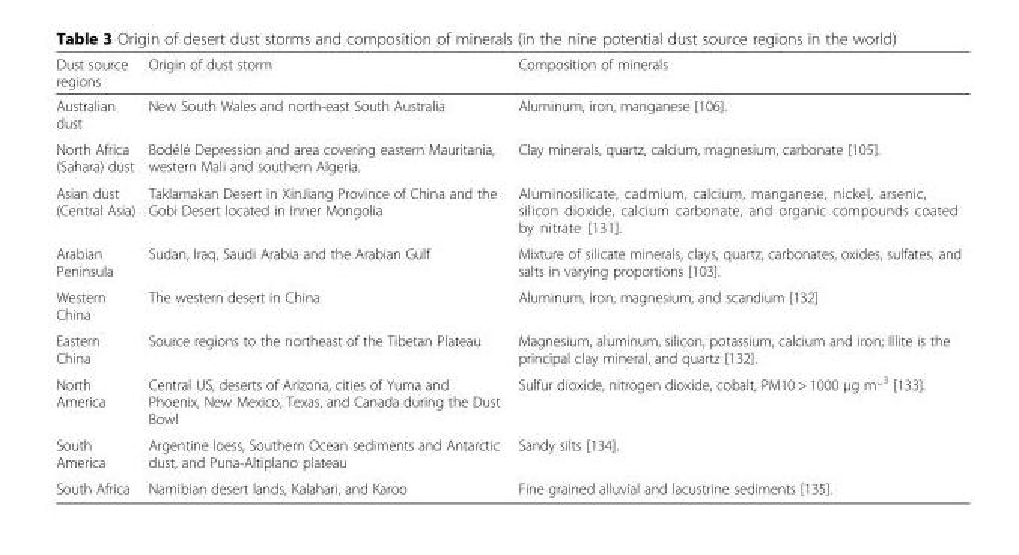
<table><thead><tr><td>Dust source regions</td><td>Origin of dust storm</td><td>Composition of minerals</td></tr></thead><tbody><tr><td>Australian dust</td><td>New South Wales and north-east South Australia</td><td>Aluminum, iron, manganese [106].</td></tr><tr><td>North Africa (Sahara) dust</td><td>Bodélé Depression and area covering eastern Mauritania, western Mali and southern Algeria.</td><td>Clay minerals, quartz, calcium, magnesium, carbonate [105].</td></tr><tr><td>Asian dust (Central Asia)</td><td>Taklamakan Desert in XinJiang Province of China and the Gobi Desert located in Inner Mongolia</td><td>Aluminosilicate, cadmium, calcium, manganese, nickel, arsenic, silicon dioxide, calcium carbonate, and organic compounds coated by nitrate [131].</td></tr><tr><td>Arabian Peninsula</td><td>Sudan, Iraq, Saudi Arabia and the Arabian Gulf</td><td>Mixture of silicate minerals, clays, quartz, carbonates, oxides, sulfates, and salts in varying proportions [103].</td></tr><tr><td>Western China</td><td>The western desert in China</td><td>Aluminum, iron, magnesium, and scandium [132]</td></tr><tr><td>Eastern China</td><td>Source regions to the northeast of the Tibetan Plateau</td><td>Magnesium, aluminum, silicon, potassium, calcium and iron; Illite is the principal clay mineral, and quartz [132].</td></tr><tr><td>North America</td><td>Central US, deserts of Arizona, cities of Yuma and Phoenix, New Mexico, Texas, and Canada during the Dust Bowl</td><td>Sulfur dioxide, nitrogen dioxide, cobalt, PM10 &gt; 1000 μg m<sup>␣3</sup> [133].</td></tr><tr><td>South America</td><td>Argentine loess, Southern Ocean sediments and Antarctic dust, and Puna-Altiplano plateau</td><td>Sandy silts [134].</td></tr><tr><td>South Africa</td><td>Namibian desert lands, Kalahari, and Karoo</td><td>Fine grained alluvial and lacustrine sediments [135].</td></tr></tbody></table>